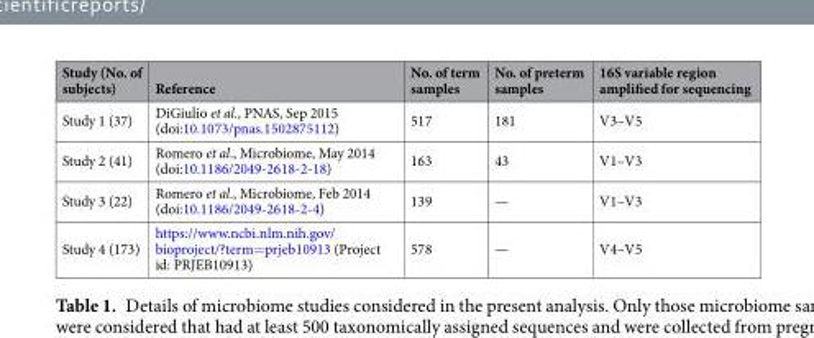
<table><thead><tr><td>Study (No. of subjects)</td><td>Reference</td><td>No. of term samples</td><td>No. of preterm samples</td><td>16S variable region amplified for sequencing</td></tr></thead><tbody><tr><td>Study 1 (37)</td><td>DiGiulio et al., PNAS, Sep 2015 (doi:10.1073/pnas.1502875112)</td><td>517</td><td>181</td><td>V3–V5</td></tr><tr><td>Study 2 (41)</td><td>Romero et al., Microbiome, May 2014 (doi:10.1186/2049-2618-2-18)</td><td>163</td><td>43</td><td>V1–V3</td></tr><tr><td>Study 3 (22)</td><td>Romero et al., Microbiome, Feb 2014 (doi:10.1186/2049-2618-2-4)</td><td>139</td><td>—</td><td>V1–V3</td></tr><tr><td>Study 4 (173)</td><td>https://www.ncbi.nlm.nih.gov/ bioproject/?term=prjeb10913 (Project id: PRJEB10913)</td><td>578</td><td>—</td><td>V4–V5</td></tr></tbody></table>